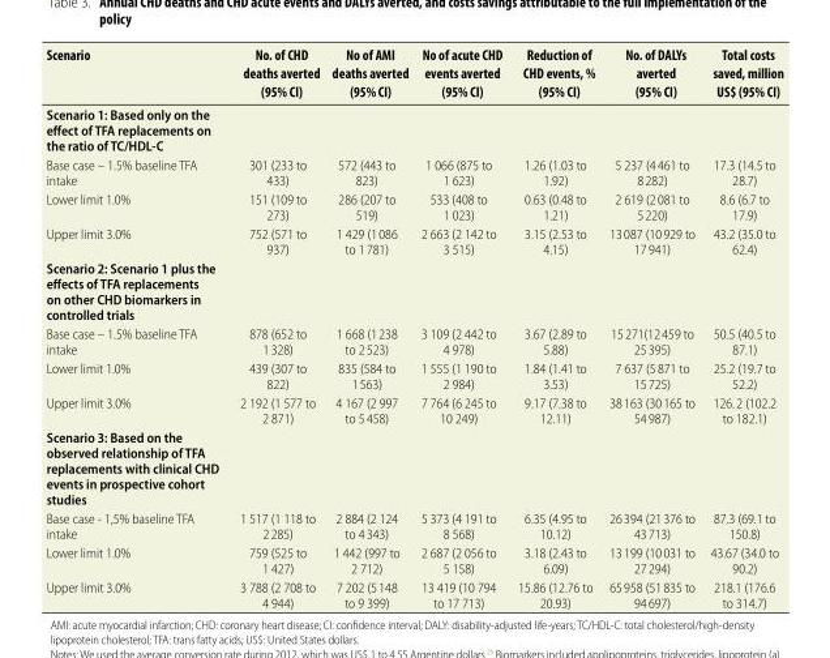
<table><thead><tr><td>Scenario</td><td>No. of CHD deaths averted (95% CI)</td><td>No of AMI deaths averted (95% CI)</td><td>No of acute CHD events averted (95% CI)</td><td>Reduction of CHD events, % (95% CI)</td><td>No. of DALYs averted (95% CI)</td><td>Total costs saved, million US$ (95% CI)</td></tr></thead><tbody><tr><td colspan="7">Scenario 1: Based only on the effect of TFA replacements on the ratio of TC/HDL-C</td></tr><tr><td>Base case – 1.5% baseline TFA intake</td><td>301 (233 to 433)</td><td>572 (443 to 823)</td><td>1 066 (875 to 1 623)</td><td>1.26 (1.03 to 1.92)</td><td>5 237 (4 461 to 8 282)</td><td>17.3 (14.5 to 28.7)</td></tr><tr><td>Lower limit 1.0%</td><td>151 (109 to 273)</td><td>286 (207 to 519)</td><td>533 (408 to 1 023)</td><td>0.63 (0.48 to 1.21)</td><td>2 619 (2 081 to 5 220)</td><td>8.6 (6.7 to 17.9)</td></tr><tr><td>Upper limit 3.0%</td><td>752 (571 to 937)</td><td>1 429 (1 086 to 1 781)</td><td>2 663 (2 142 to 3 515)</td><td>3.15 (2.53 to 4.15)</td><td>13 087 (10 929 to 17 941)</td><td>43.2 (35.0 to 62.4)</td></tr><tr><td colspan="7">Scenario 2: Scenario 1 plus the effects of TFA replacements on other CHD biomarkers in controlled trials</td></tr><tr><td>Base case – 1.5% baseline TFA intake</td><td>878 (652 to 1 328)</td><td>1 668 (1 238 to 2 523)</td><td>3 109 (2 442 to 4 978)</td><td>3.67 (2.89 to 5.88)</td><td>15 271(12 459 to 25 395)</td><td>50.5 (40.5 to 87.1)</td></tr><tr><td>Lower limit 1.0%</td><td>439 (307 to 822)</td><td>835 (584 to 1 563)</td><td>1 555 (1 190 to 2 984)</td><td>1.84 (1.41 to 3.53)</td><td>7 637 (5 871 to 15 725)</td><td>25.2 (19.7 to 52.2)</td></tr><tr><td>Upper limit 3.0%</td><td>2 192 (1 577 to 2 871)</td><td>4 167 (2 997 to 5 458)</td><td>7 764 (6 245 to 10 249)</td><td>9.17 (7.38 to 12.11)</td><td>38 163 (30 165 to 54 987)</td><td>126. 2 (102.2 to 182.1)</td></tr><tr><td colspan="7">Scenario 3: Based on the observed relationship of TFA replacements with clinical CHD events in prospective cohort studies</td></tr><tr><td>Base case - 1,5% baseline TFA intake</td><td>1 517 (1 118 to 2 285)</td><td>2 884 (2 124 to 4 343)</td><td>5 373 (4 191 to 8 568)</td><td>6.35 (4.95 to 10.12)</td><td>26 394 (21 376 to 43 713)</td><td>87.3 (69.1 to 150.8)</td></tr><tr><td>Lower limit 1.0%</td><td>759 (525 to 1 427)</td><td>1 442 (997 to 2 712)</td><td>2 687 (2 056 to 5 158)</td><td>3.18 (2.43 to 6.09)</td><td>13 199 (10 031 to 27 294)</td><td>43.67 (34.0 to 90.2)</td></tr><tr><td>Upper limit 3.0%</td><td>3 788 (2 708 to 4 944)</td><td>7 202 (5 148 to 9 399)</td><td>13 419 (10 794 to 17 713)</td><td>15.86 (12.76 to 20.93)</td><td>65 958 (51 835 to 94 697)</td><td>218.1 (176.6 to 314.7)</td></tr></tbody></table>